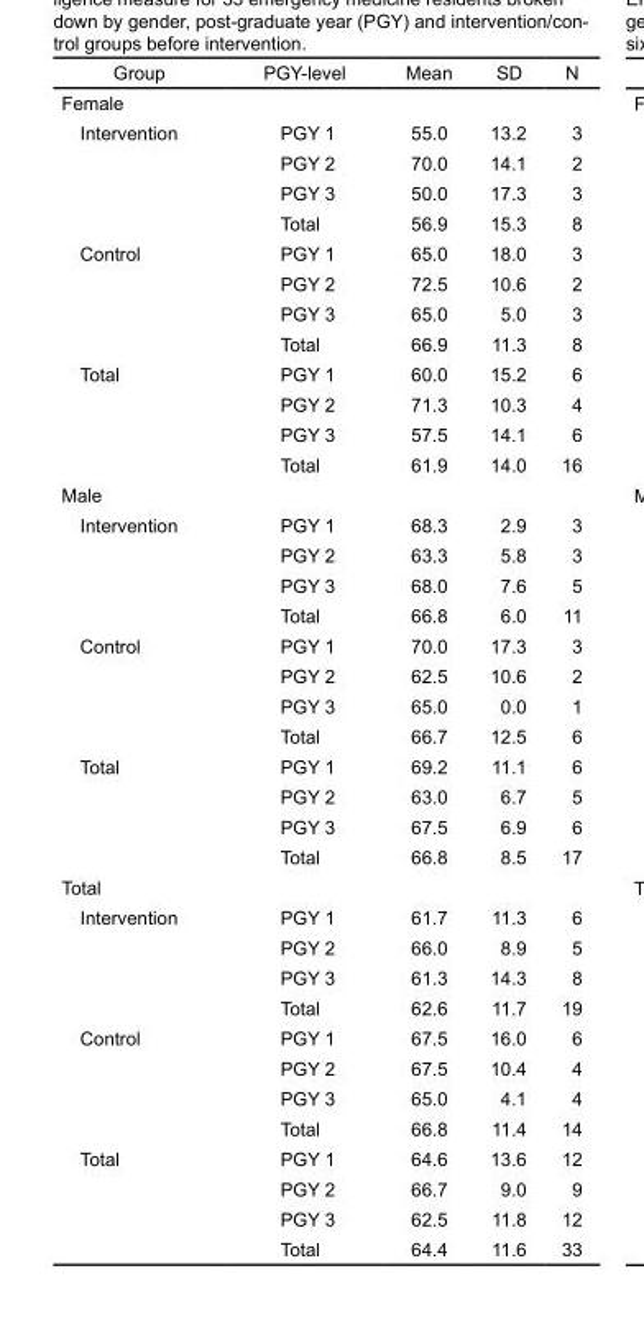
<table><thead><tr><td>Group</td><td>PGY-level</td><td>Mean</td><td>SD</td><td>N</td></tr></thead><tbody><tr><td colspan="5">Female</td></tr><tr><td rowspan="4">Intervention</td><td>PGY 1</td><td>55.0</td><td>13.2</td><td>3</td></tr><tr><td>PGY 2</td><td>70.0</td><td>14.1</td><td>2</td></tr><tr><td>PGY 3</td><td>50.0</td><td>17.3</td><td>3</td></tr><tr><td>Total</td><td>56.9</td><td>15.3</td><td>8</td></tr><tr><td rowspan="4">Control</td><td>PGY 1</td><td>65.0</td><td>18.0</td><td>3</td></tr><tr><td>PGY 2</td><td>72.5</td><td>10.6</td><td>2</td></tr><tr><td>PGY 3</td><td>65.0</td><td>5.0</td><td>3</td></tr><tr><td>Total</td><td>66.9</td><td>11.3</td><td>8</td></tr><tr><td rowspan="4">Total</td><td>PGY 1</td><td>60.0</td><td>15.2</td><td>6</td></tr><tr><td>PGY 2</td><td>71.3</td><td>10.3</td><td>4</td></tr><tr><td>PGY 3</td><td>57.5</td><td>14.1</td><td>6</td></tr><tr><td>Total</td><td>61.9</td><td>14.0</td><td>16</td></tr><tr><td colspan="5">Male</td></tr><tr><td rowspan="4">Intervention</td><td>PGY 1</td><td>68.3</td><td>2.9</td><td>3</td></tr><tr><td>PGY 2</td><td>63.3</td><td>5.8</td><td>3</td></tr><tr><td>PGY 3</td><td>68.0</td><td>7.6</td><td>5</td></tr><tr><td>Total</td><td>66.8</td><td>6.0</td><td>11</td></tr><tr><td rowspan="4">Control</td><td>PGY 1</td><td>70.0</td><td>17.3</td><td>3</td></tr><tr><td>PGY 2</td><td>62.5</td><td>10.6</td><td>2</td></tr><tr><td>PGY 3</td><td>65.0</td><td>0.0</td><td>1</td></tr><tr><td>Total</td><td>66.7</td><td>12.5</td><td>6</td></tr><tr><td rowspan="4">Total</td><td>PGY 1</td><td>69.2</td><td>11.1</td><td>6</td></tr><tr><td>PGY 2</td><td>63.0</td><td>6.7</td><td>5</td></tr><tr><td>PGY 3</td><td>67.5</td><td>6.9</td><td>6</td></tr><tr><td>Total</td><td>66.8</td><td>8.5</td><td>17</td></tr><tr><td colspan="5">Total</td></tr><tr><td rowspan="4">Intervention</td><td>PGY 1</td><td>61.7</td><td>11.3</td><td>6</td></tr><tr><td>PGY 2</td><td>66.0</td><td>8.9</td><td>5</td></tr><tr><td>PGY 3</td><td>61.3</td><td>14.3</td><td>8</td></tr><tr><td>Total</td><td>62.6</td><td>11.7</td><td>19</td></tr><tr><td rowspan="4">Control</td><td>PGY 1</td><td>67.5</td><td>16.0</td><td>6</td></tr><tr><td>PGY 2</td><td>67.5</td><td>10.4</td><td>4</td></tr><tr><td>PGY 3</td><td>65.0</td><td>4.1</td><td>4</td></tr><tr><td>Total</td><td>66.8</td><td>11.4</td><td>14</td></tr><tr><td rowspan="4">Total</td><td>PGY 1</td><td>64.6</td><td>13.6</td><td>12</td></tr><tr><td>PGY 2</td><td>66.7</td><td>9.0</td><td>9</td></tr><tr><td>PGY 3</td><td>62.5</td><td>11.8</td><td>12</td></tr><tr><td>Total</td><td>64.4</td><td>11.6</td><td>33</td></tr></tbody></table>